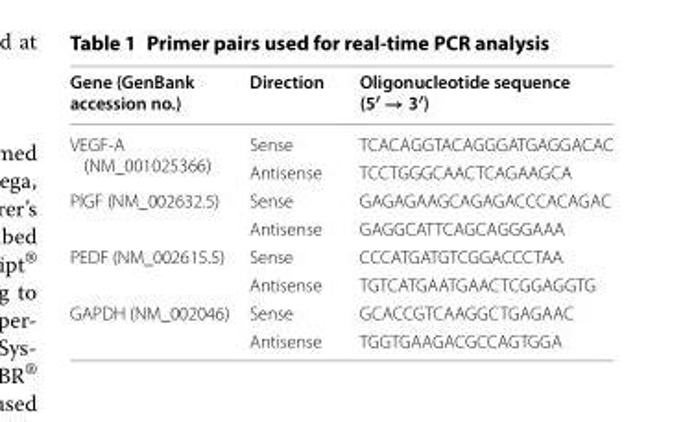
<table><thead><tr><td>Gene (GenBank accession no.)</td><td>Direction</td><td>Oligonucleotide sequence (5′ → 3′)</td></tr></thead><tbody><tr><td rowspan="2">VEGF-A (NM_001025366)</td><td>Sense</td><td>TCACAGGTACAGGGATGAGGACAC</td></tr><tr><td>Antisense</td><td>TCCTGGGCAACTCAGAAGCA</td></tr><tr><td rowspan="2">PlGF (NM_002632.5)</td><td>Sense</td><td>GAGAGAAGCAGAGACCCACAGAC</td></tr><tr><td>Antisense</td><td>GAGGCATTCAGCAGGGAAA</td></tr><tr><td rowspan="2">PEDF (NM_002615.5)</td><td>Sense</td><td>CCCATGATGTCGGACCCTAA</td></tr><tr><td>Antisense</td><td>TGTCATGAATGAACTCGGAGGTG</td></tr><tr><td rowspan="2">GAPDH (NM_002046)</td><td>Sense</td><td>GCACCGTCAAGGCTGAGAAC</td></tr><tr><td>Antisense</td><td>TGGTGAAGACGCCAGTGGA</td></tr></tbody></table>